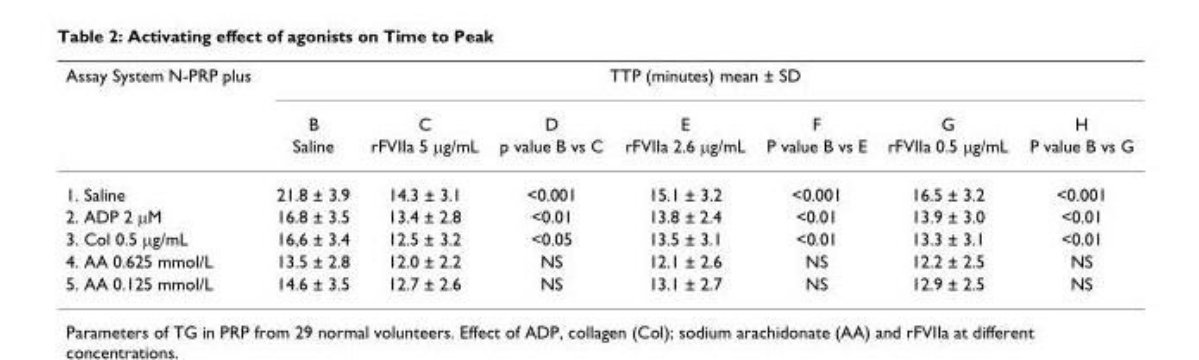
<table><thead><tr><td rowspan="3">Assay System N-PRP plus</td><td colspan="7">TTP (minutes) mean ± SD</td></tr><tr><td rowspan="2">B Saline</td><td rowspan="2">C rFVIIa 5 µg/mL</td><td rowspan="2">D p value B vs C</td><td rowspan="2">E rFVIIa 2.6 µg/mL</td><td rowspan="2">F P value B vs E</td><td rowspan="2">G rFVIIa 0.5 µg/mL</td><td rowspan="2">H P value B vs G</td></tr><tr></tr></thead><tbody><tr><td>1. Saline</td><td>21.8 ± 3.9</td><td>14.3 ± 3.1</td><td>&lt;0.001</td><td>15.1 ± 3.2</td><td>&lt;0.001</td><td>16.5 ± 3.2</td><td>&lt;0.001</td></tr><tr><td>2. ADP 2 µM</td><td>16.8 ± 3.5</td><td>13.4 ± 2.8</td><td>&lt;0.01</td><td>13.8 ± 2.4</td><td>&lt;0.01</td><td>13.9 ± 3.0</td><td>&lt;0.01</td></tr><tr><td>3. Col 0.5 µg/mL</td><td>16,6 ± 3.4</td><td>12.5 ± 3.2</td><td>&lt;0.05</td><td>13.5 ± 3.1</td><td>&lt;0.01</td><td>13.3 ± 3.1</td><td>&lt;0.01</td></tr><tr><td>4. AA 0.625 mmol/L</td><td>13.5 ± 2.8</td><td>12.0 ± 2.2</td><td>NS</td><td>12.1 ± 2.6</td><td>NS</td><td>12.2 ± 2.5</td><td>NS</td></tr><tr><td>5. AA 0.125 mmol/L</td><td>14.6 ± 3.5</td><td>12.7 ± 2.6</td><td>NS</td><td>13.1 ± 2.7</td><td>NS</td><td>12.9 ± 2.5</td><td>NS</td></tr></tbody></table>